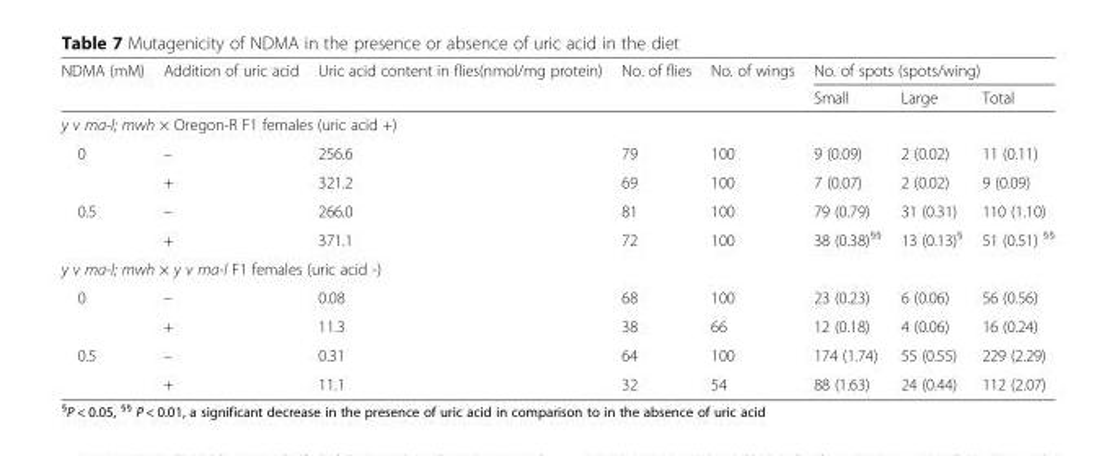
<table><thead><tr><td rowspan="2">NDMA (mM)</td><td rowspan="2">Addition of uric acid</td><td rowspan="2">Uric acid content in flies(nmol/mg protein)</td><td rowspan="2">No. of flies</td><td rowspan="2">No. of wings</td><td colspan="3">No. of spots (spots/wing)</td></tr><tr><td>Small</td><td>Large</td><td>Total</td></tr></thead><tbody><tr><td colspan="8">y v ma-l; mwh × Oregon-R F1 females (uric acid +)</td></tr><tr><td rowspan="2">0</td><td>–</td><td>256.6</td><td>79</td><td>100</td><td>9 (0.09)</td><td>2 (0.02)</td><td>11 (0.11)</td></tr><tr><td>+</td><td>321.2</td><td>69</td><td>100</td><td>7 (0.07)</td><td>2 (0.02)</td><td>9 (0.09)</td></tr><tr><td rowspan="2">0.5</td><td>–</td><td>266.0</td><td>81</td><td>100</td><td>79 (0.79)</td><td>31 (0.31)</td><td>110 (1.10)</td></tr><tr><td>+</td><td>371.1</td><td>72</td><td>100</td><td>38 (0.38)<sup>§§</sup></td><td>13 (0.13)<sup>§</sup></td><td>51 (0.51) <sup>§§</sup></td></tr><tr><td colspan="8">y v ma-l; mwh × y v ma-l F1 females (uric acid -)</td></tr><tr><td rowspan="2">0</td><td>–</td><td>0.08</td><td>68</td><td>100</td><td>23 (0.23)</td><td>6 (0.06)</td><td>56 (0.56)</td></tr><tr><td>+</td><td>11.3</td><td>38</td><td>66</td><td>12 (0.18)</td><td>4 (0.06)</td><td>16 (0.24)</td></tr><tr><td rowspan="2">0.5</td><td>–</td><td>0.31</td><td>64</td><td>100</td><td>174 (1.74)</td><td>55 (0.55)</td><td>229 (2.29)</td></tr><tr><td>+</td><td>11.1</td><td>32</td><td>54</td><td>88 (1.63)</td><td>24 (0.44)</td><td>112 (2.07)</td></tr></tbody></table>